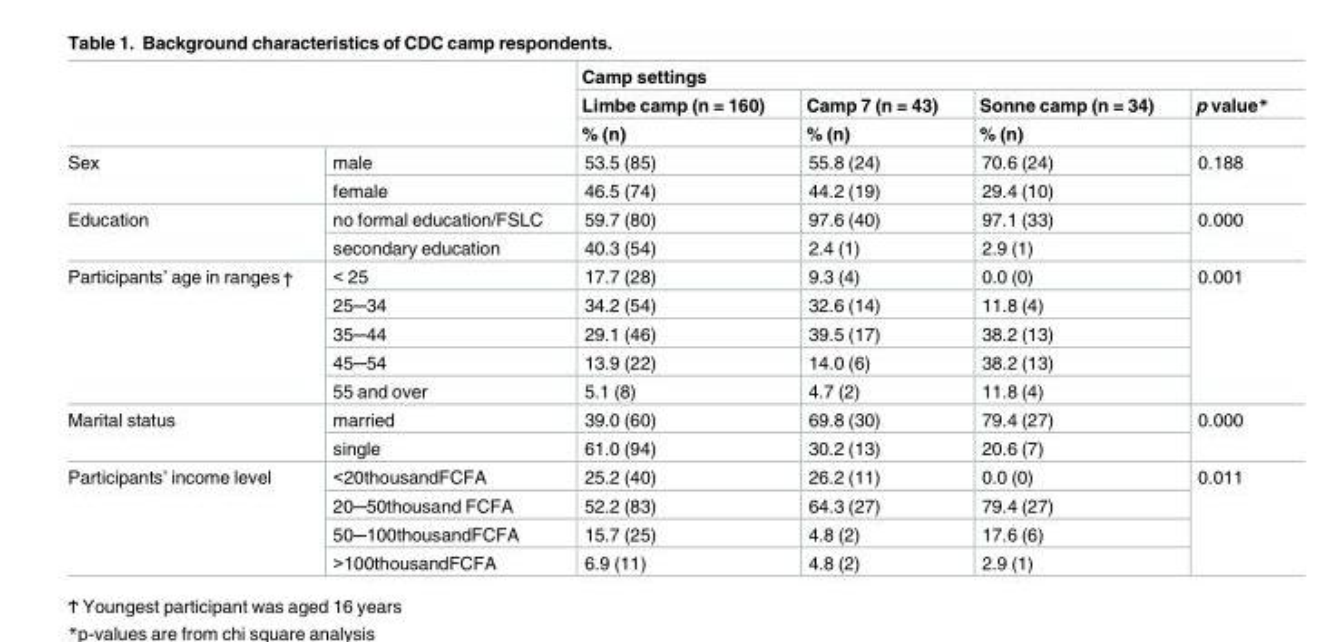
<table><thead><tr><td rowspan="3"></td><td rowspan="3"></td><td colspan="4">Camp settings</td></tr><tr><td rowspan="2">Limbe camp (n = 160) % (n)</td><td rowspan="2">Camp 7 (n = 43) % (n)</td><td rowspan="2">Sonne camp (n = 34) % (n)</td><td rowspan="2">p value*</td></tr><tr></tr></thead><tbody><tr><td rowspan="2">Sex</td><td>male</td><td>53.5 (85)</td><td>55.8 (24)</td><td>70.6 (24)</td><td rowspan="2">0.188</td></tr><tr><td>female</td><td>46.5 (74)</td><td>44.2 (19)</td><td>29.4 (10)</td></tr><tr><td rowspan="2">Education</td><td>no formal education/FSLC</td><td>59.7 (80)</td><td>97.6 (40)</td><td>97.1 (33)</td><td rowspan="2">0.000</td></tr><tr><td>secondary education</td><td>40.3 (54)</td><td>2.4 (1)</td><td>2.9 (1)</td></tr><tr><td rowspan="5">Participants’ age in ranges ϯ</td><td>&lt; 25</td><td>17.7 (28)</td><td>9.3 (4)</td><td>0.0 (0)</td><td rowspan="5">0.001</td></tr><tr><td>25─34</td><td>34.2 (54)</td><td>32.6 (14)</td><td>11.8 (4)</td></tr><tr><td>35─44</td><td>29.1 (46)</td><td>39.5 (17)</td><td>38.2 (13)</td></tr><tr><td>45─54</td><td>13.9 (22)</td><td>14.0 (6)</td><td>38.2 (13)</td></tr><tr><td>55 and over</td><td>5.1 (8)</td><td>4.7 (2)</td><td>11.8 (4)</td></tr><tr><td rowspan="2">Marital status</td><td>married</td><td>39.0 (60)</td><td>69.8 (30)</td><td>79.4 (27)</td><td rowspan="2">0.000</td></tr><tr><td>single</td><td>61.0 (94)</td><td>30.2 (13)</td><td>20.6 (7)</td></tr><tr><td rowspan="4">Participants’ income level</td><td>&lt;20thousandFCFA</td><td>25.2 (40)</td><td>26.2 (11)</td><td>0.0 (0)</td><td rowspan="4">0.011</td></tr><tr><td>20─50thousand FCFA</td><td>52.2 (83)</td><td>64.3 (27)</td><td>79.4 (27)</td></tr><tr><td>50─100thousandFCFA</td><td>15.7 (25)</td><td>4.8 (2)</td><td>17.6 (6)</td></tr><tr><td>&gt;100thousandFCFA</td><td>6.9 (11)</td><td>4.8 (2)</td><td>2.9 (1)</td></tr></tbody></table>